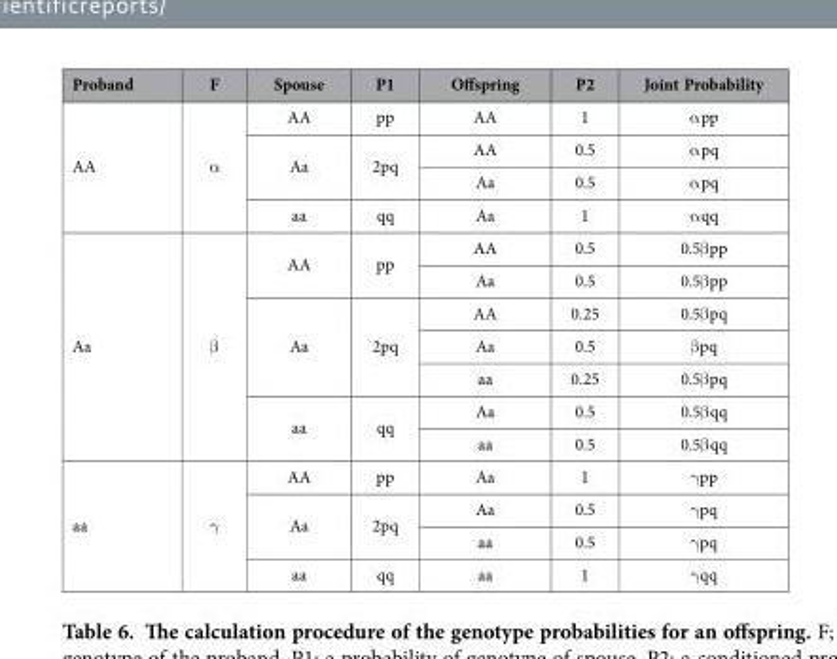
<table><thead><tr><td>Proband</td><td>F</td><td>Spouse</td><td>P1</td><td>Offspring</td><td>P2</td><td>Joint Probability</td></tr></thead><tbody><tr><td rowspan="4">AA</td><td rowspan="4">α</td><td>AA</td><td>pp</td><td>AA</td><td>1</td><td>α pp</td></tr><tr><td rowspan="2">Aa</td><td rowspan="2">2pq</td><td>AA</td><td>0.5</td><td>α pq</td></tr><tr><td>Aa</td><td>0.5</td><td>α pq</td></tr><tr><td>aa</td><td>qq</td><td>Aa</td><td>1</td><td>α qq</td></tr><tr><td rowspan="7">Aa</td><td rowspan="7">β</td><td rowspan="2">AA</td><td rowspan="2">pp</td><td>AA</td><td>0.5</td><td>0.5β pp</td></tr><tr><td>Aa</td><td>0.5</td><td>0.5β pp</td></tr><tr><td rowspan="3">Aa</td><td rowspan="3">2pq</td><td>AA</td><td>0.25</td><td>0.5β pq</td></tr><tr><td>Aa</td><td>0.5</td><td>β pq</td></tr><tr><td>aa</td><td>0.25</td><td>0.5β pq</td></tr><tr><td rowspan="2">aa</td><td rowspan="2">qq</td><td>Aa</td><td>0.5</td><td>0.5β qq</td></tr><tr><td>aa</td><td>0.5</td><td>0.5β qq</td></tr><tr><td rowspan="4">aa</td><td rowspan="4">γ</td><td>AA</td><td>pp</td><td>Aa</td><td>1</td><td>γ pp</td></tr><tr><td rowspan="2">Aa</td><td rowspan="2">2pq</td><td>Aa</td><td>0.5</td><td>γ pq</td></tr><tr><td>aa</td><td>0.5</td><td>γ pq</td></tr><tr><td>aa</td><td>qq</td><td>aa</td><td>1</td><td>γ qq</td></tr></tbody></table>